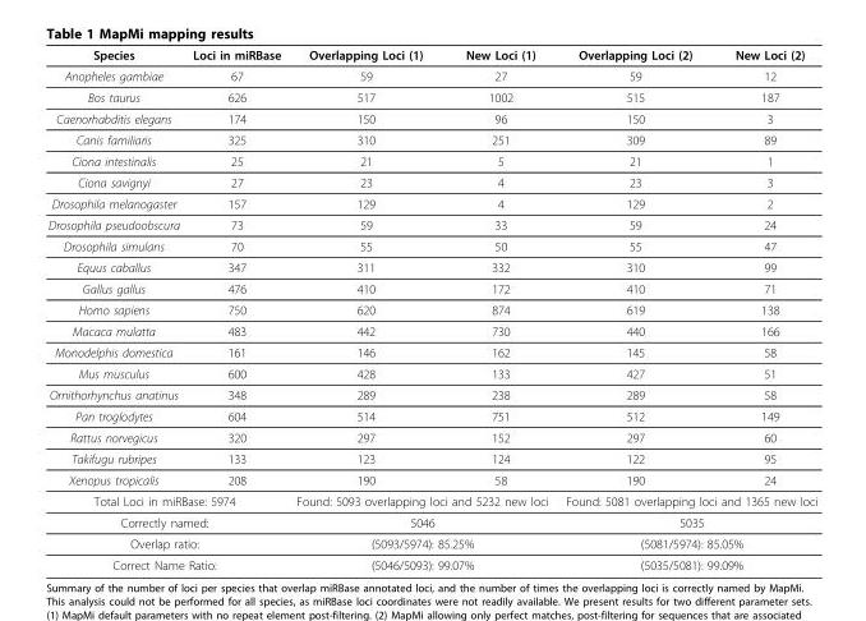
<table><thead><tr><td>Species</td><td>Loci in miRBase</td><td>Overlapping Loci (1)</td><td>New Loci (1)</td><td>Overlapping Loci (2)</td><td>New Loci (2)</td></tr></thead><tbody><tr><td>Anopheles gambiae</td><td>67</td><td>59</td><td>27</td><td>59</td><td>12</td></tr><tr><td>Bos taurus</td><td>626</td><td>517</td><td>1002</td><td>515</td><td>187</td></tr><tr><td>Caenorhabditis elegans</td><td>174</td><td>150</td><td>96</td><td>150</td><td>3</td></tr><tr><td>Canis familiaris</td><td>325</td><td>310</td><td>251</td><td>309</td><td>89</td></tr><tr><td>Ciona intestinalis</td><td>25</td><td>21</td><td>5</td><td>21</td><td>1</td></tr><tr><td>Ciona savignyi</td><td>27</td><td>23</td><td>4</td><td>23</td><td>3</td></tr><tr><td>Drosophila melanogaster</td><td>157</td><td>129</td><td>4</td><td>129</td><td>2</td></tr><tr><td>Drosophila pseudoobscura</td><td>73</td><td>59</td><td>33</td><td>59</td><td>24</td></tr><tr><td>Drosophila simulans</td><td>70</td><td>55</td><td>50</td><td>55</td><td>47</td></tr><tr><td>Equus caballus</td><td>347</td><td>311</td><td>332</td><td>310</td><td>99</td></tr><tr><td>Gallus gallus</td><td>476</td><td>410</td><td>172</td><td>410</td><td>71</td></tr><tr><td>Homo sapiens</td><td>750</td><td>620</td><td>874</td><td>619</td><td>138</td></tr><tr><td>Macaca mulatta</td><td>483</td><td>442</td><td>730</td><td>440</td><td>166</td></tr><tr><td>Monodelphis domestica</td><td>161</td><td>146</td><td>162</td><td>145</td><td>58</td></tr><tr><td>Mus musculus</td><td>600</td><td>428</td><td>133</td><td>427</td><td>51</td></tr><tr><td>Ornithorhynchus anatinus</td><td>348</td><td>289</td><td>238</td><td>289</td><td>58</td></tr><tr><td>Pan troglodytes</td><td>604</td><td>514</td><td>751</td><td>512</td><td>149</td></tr><tr><td>Rattus norvegicus</td><td>320</td><td>297</td><td>152</td><td>297</td><td>60</td></tr><tr><td>Takifugu rubripes</td><td>133</td><td>123</td><td>124</td><td>122</td><td>95</td></tr><tr><td>Xenopus tropicalis</td><td>208</td><td>190</td><td>58</td><td>190</td><td>24</td></tr><tr><td colspan="2">Total Loci in miRBase: 5974</td><td colspan="2">Found: 5093 overlapping loci and 5232 new loci</td><td colspan="2">Found: 5081 overlapping loci and 1365 new loci</td></tr><tr><td colspan="2">Correctly named:</td><td colspan="2">5046</td><td colspan="2">5035</td></tr><tr><td colspan="2">Overlap ratio:</td><td colspan="2">(5093/5974): 85.25%</td><td colspan="2">(5081/5974): 85.05%</td></tr><tr><td colspan="2">Correct Name Ratio:</td><td colspan="2">(5046/5093): 99.07%</td><td colspan="2">(5035/5081): 99.09%</td></tr></tbody></table>